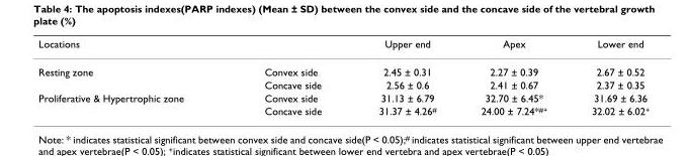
<table><thead><tr><td>Locations</td><td></td><td>Upper end</td><td>Apex</td><td>Lower end</td></tr></thead><tbody><tr><td rowspan="2">Resting zone</td><td>Convex side</td><td>2.45 ± 0.31</td><td>2.27 ± 0.39</td><td>2.67 ± 0.52</td></tr><tr><td>Concave side</td><td>2.56 ± 0.6</td><td>2.41 ± 0.67</td><td>2.37 ± 0.35</td></tr><tr><td rowspan="2">Proliferative &amp; Hypertrophic zone</td><td>Convex side</td><td>31.13 ± 6.79</td><td>32.70 ± 6.45*</td><td>31.69 ± 6.36</td></tr><tr><td>Concave side</td><td>31.37 ± 4.26<sup>#</sup></td><td>24.00 ± 7.24*<sup>#+</sup></td><td>32.02 ± 6.02<sup>+</sup></td></tr></tbody></table>